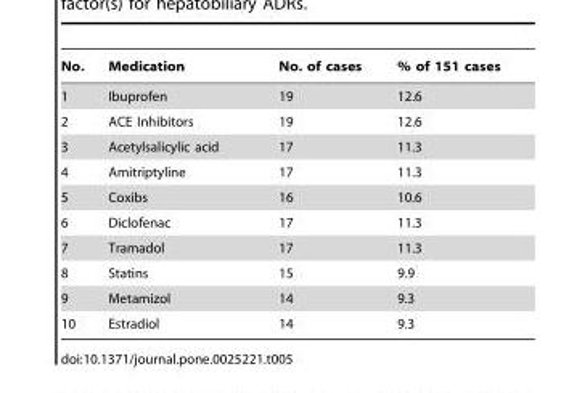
<table><thead><tr><td>No.</td><td>Medication</td><td>No. of cases</td><td>% of 151 cases</td></tr></thead><tbody><tr><td>1</td><td>Ibuprofen</td><td>19</td><td>12.6</td></tr><tr><td>2</td><td>ACE Inhibitors</td><td>19</td><td>12.6</td></tr><tr><td>3</td><td>Acetylsalicylic acid</td><td>17</td><td>11.3</td></tr><tr><td>4</td><td>Amitriptyline</td><td>17</td><td>11.3</td></tr><tr><td>5</td><td>Coxibs</td><td>16</td><td>10.6</td></tr><tr><td>6</td><td>Diclofenac</td><td>17</td><td>11.3</td></tr><tr><td>7</td><td>Tramadol</td><td>17</td><td>11.3</td></tr><tr><td>8</td><td>Statins</td><td>15</td><td>9.9</td></tr><tr><td>9</td><td>Metamizol</td><td>14</td><td>9.3</td></tr><tr><td>10</td><td>Estradiol</td><td>14</td><td>9.3</td></tr></tbody></table>